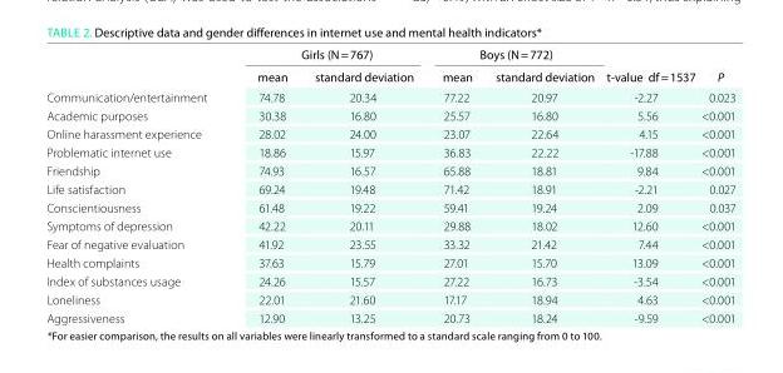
<table><thead><tr><td rowspan="2"></td><td colspan="2">Girls (N = 767)</td><td colspan="2">Boys (N = 772)</td><td rowspan="2">t-value df = 1537</td><td rowspan="2">P</td></tr><tr><td>mean</td><td>standard deviation</td><td>mean</td><td>standard deviation</td></tr></thead><tbody><tr><td>Communication/entertainment</td><td>74.78</td><td>20.34</td><td>77.22</td><td>20.97</td><td>-2.27</td><td>0.023</td></tr><tr><td>Academic purposes</td><td>30.38</td><td>16.80</td><td>25.57</td><td>16.80</td><td>5.56</td><td>&lt;0.001</td></tr><tr><td>Online harassment experience</td><td>28.02</td><td>24.00</td><td>23.07</td><td>22.64</td><td>4.15</td><td>&lt;0.001</td></tr><tr><td>Problematic internet use</td><td>18.86</td><td>15.97</td><td>36.83</td><td>22.22</td><td>-17.88</td><td>&lt;0.001</td></tr><tr><td>Friendship</td><td>74.93</td><td>16.57</td><td>65.88</td><td>18.81</td><td>9.84</td><td>&lt;0.001</td></tr><tr><td>Life satisfaction</td><td>69.24</td><td>19.48</td><td>71.42</td><td>18.91</td><td>-2.21</td><td>0.027</td></tr><tr><td>Conscientiousness</td><td>61.48</td><td>19.22</td><td>59.41</td><td>19.24</td><td>2.09</td><td>0.037</td></tr><tr><td>Symptoms of depression</td><td>42.22</td><td>20.11</td><td>29.88</td><td>18.02</td><td>12.60</td><td>&lt;0.001</td></tr><tr><td>Fear of negative evaluation</td><td>41.92</td><td>23.55</td><td>33.32</td><td>21.42</td><td>7.44</td><td>&lt;0.001</td></tr><tr><td>Health complaints</td><td>37.63</td><td>15.79</td><td>27.01</td><td>15.70</td><td>13.09</td><td>&lt;0.001</td></tr><tr><td>Index of substances usage</td><td>24.26</td><td>15.57</td><td>27.22</td><td>16.73</td><td>-3.54</td><td>&lt;0.001</td></tr><tr><td>Loneliness</td><td>22.01</td><td>21.60</td><td>17.17</td><td>18.94</td><td>4.63</td><td>&lt;0.001</td></tr><tr><td>Aggressiveness</td><td>12.90</td><td>13.25</td><td>20.73</td><td>18.24</td><td>-9.59</td><td>&lt;0.001</td></tr></tbody></table>